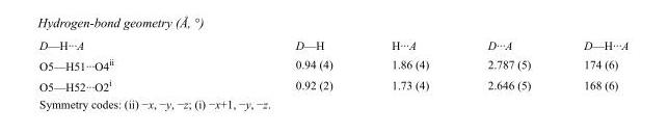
<table><tbody><tr><td>D—H···A</td><td>D—H</td><td>H···A</td><td>D···A</td><td>D—H···A</td></tr><tr><td>O5—H51···O4<sup>ii</sup></td><td>0.94 (4)</td><td>1.86 (4)</td><td>2.787 (5)</td><td>174 (6)</td></tr><tr><td>O5—H52···O2<sup>i</sup></td><td>0.92 (2)</td><td>1.73 (4)</td><td>2.646 (5)</td><td>168 (6)</td></tr></tbody></table>